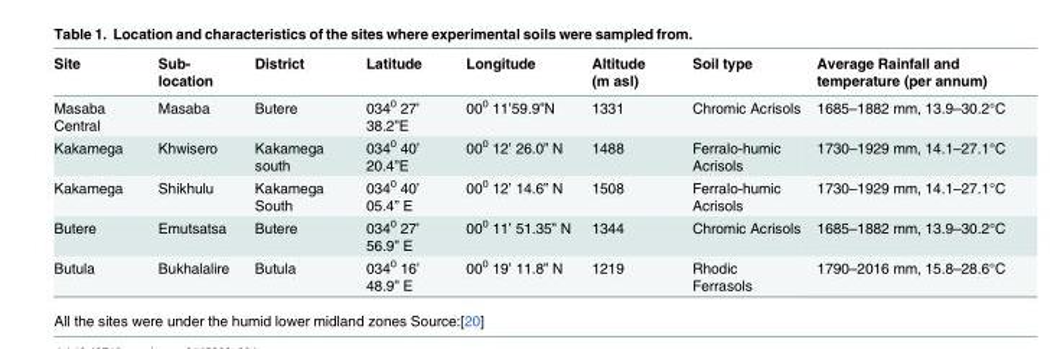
<table><thead><tr><td>Site</td><td>Sub- location</td><td>District</td><td>Latitude</td><td>Longitude</td><td>Altitude (m asl)</td><td>Soil type</td><td>Average Rainfall and temperature (per annum)</td></tr></thead><tbody><tr><td>Masaba Central</td><td>Masaba</td><td>Butere</td><td>034<sup>0</sup> 27’ 38.2”E</td><td>00<sup>0</sup> 11’59.9”N</td><td>1331</td><td>Chromic Acrisols</td><td>1685–1882 mm, 13.9–30.2°C</td></tr><tr><td>Kakamega</td><td>Khwisero</td><td>Kakamega south</td><td>034<sup>0</sup> 40’ 20.4”E</td><td>00<sup>0</sup> 12’ 26.0” N</td><td>1488</td><td>Ferralo-humic Acrisols</td><td>1730–1929 mm, 14.1–27.1°C</td></tr><tr><td>Kakamega</td><td>Shikhulu</td><td>Kakamega South</td><td>034<sup>0</sup> 40’ 05.4” E</td><td>00<sup>0</sup> 12’ 14.6” N</td><td>1508</td><td>Ferralo-humic Acrisols</td><td>1730–1929 mm, 14.1–27.1°C</td></tr><tr><td>Butere</td><td>Emutsatsa</td><td>Butere</td><td>034<sup>0</sup> 27’ 56.9” E</td><td>00<sup>0</sup> 11’ 51.35” N</td><td>1344</td><td>Chromic Acrisols</td><td>1685–1882 mm, 13.9–30.2°C</td></tr><tr><td>Butula</td><td>Bukhalalire</td><td>Butula</td><td>034<sup>0</sup> 16’ 48.9” E</td><td>00<sup>0</sup> 19’ 11.8” N</td><td>1219</td><td>Rhodic Ferrasols</td><td>1790–2016 mm, 15.8–28.6°C</td></tr></tbody></table>